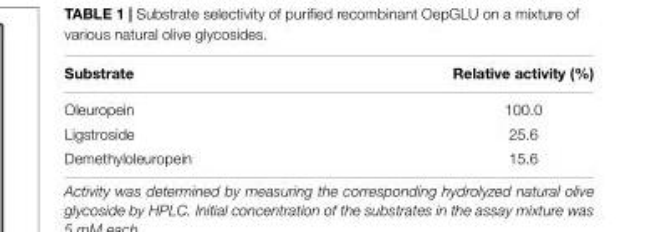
<table><thead><tr><td>Substrate</td><td>Relative activity (%)</td></tr></thead><tbody><tr><td>Oleuropein</td><td>100.0</td></tr><tr><td>Ligstroside</td><td>25.6</td></tr><tr><td>Demethyloleuropein</td><td>15.6</td></tr></tbody></table>